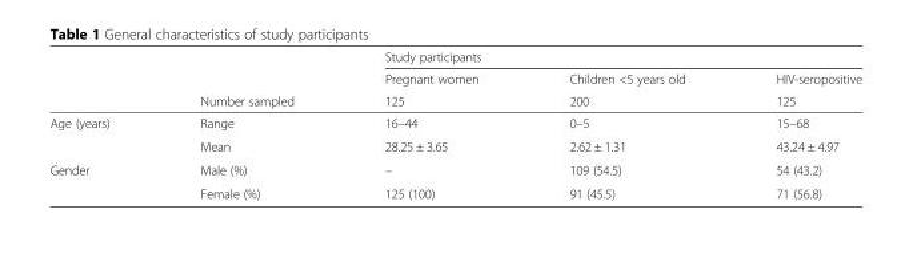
<table><thead><tr><td rowspan="3"></td><td rowspan="3">Number sampled</td><td colspan="3">Study participants</td></tr><tr><td rowspan="2">Pregnant women 125</td><td rowspan="2">Children &lt;5 years old 200</td><td rowspan="2">HIV-seropositive 125</td></tr><tr></tr></thead><tbody><tr><td rowspan="2">Age (years)</td><td>Range</td><td>16–44</td><td>0–5</td><td>15–68</td></tr><tr><td>Mean</td><td>28.25 ± 3.65</td><td>2.62 ± 1.31</td><td>43.24 ± 4.97</td></tr><tr><td rowspan="2">Gender</td><td>Male (%)</td><td>–</td><td>109 (54.5)</td><td>54 (43.2)</td></tr><tr><td>Female (%)</td><td>125 (100)</td><td>91 (45.5)</td><td>71 (56.8)</td></tr></tbody></table>